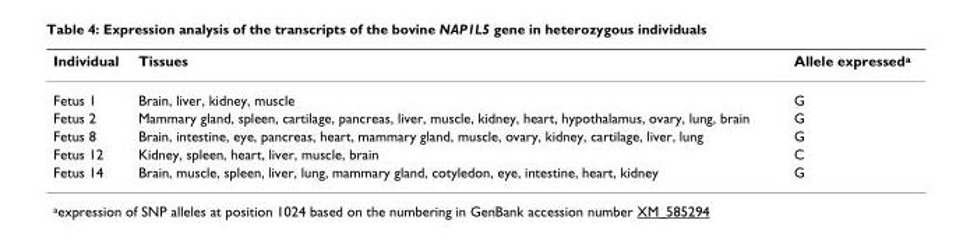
<table><thead><tr><td>Individual</td><td>Tissues</td><td>Allele expressed<sup>a</sup></td></tr></thead><tbody><tr><td>Fetus 1</td><td>Brain, liver, kidney, muscle</td><td>G</td></tr><tr><td>Fetus 2</td><td>Mammary gland, spleen, cartilage, pancreas, liver, muscle, kidney, heart, hypothalamus, ovary, lung, brain</td><td>G</td></tr><tr><td>Fetus 8</td><td>Brain, intestine, eye, pancreas, heart, mammary gland, muscle, ovary, kidney, cartilage, liver, lung</td><td>G</td></tr><tr><td>Fetus 12</td><td>Kidney, spleen, heart, liver, muscle, brain</td><td>C</td></tr><tr><td>Fetus 14</td><td>Brain, muscle, spleen, liver, lung, mammary gland, cotyledon, eye, intestine, heart, kidney</td><td>G</td></tr></tbody></table>